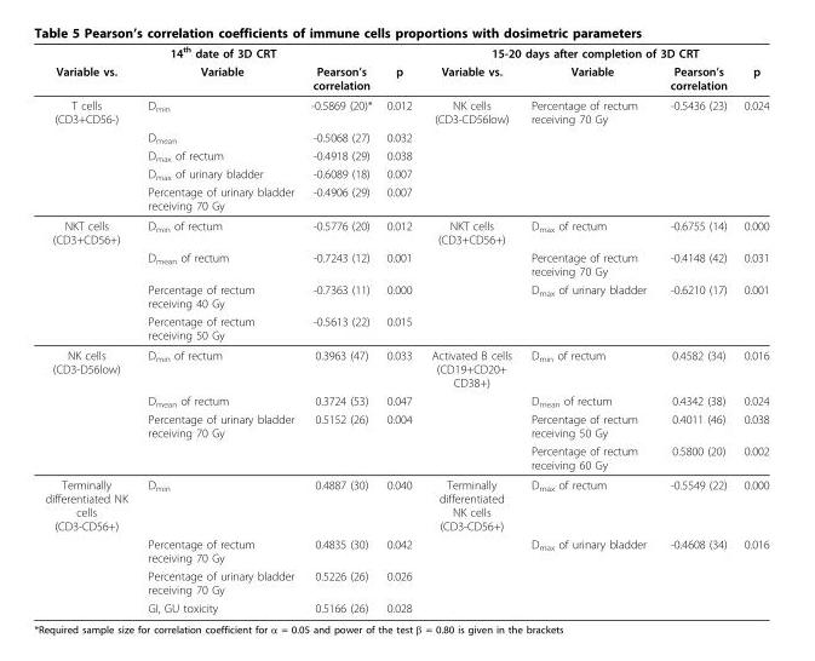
<table><thead><tr><td colspan="4">14<sup>th</sup> date of 3D CRT</td><td colspan="4">15-20 days after completion of 3D CRT</td></tr><tr><td>Variable vs.</td><td>Variable</td><td>Pearson’s correlation</td><td>p</td><td>Variable vs.</td><td>Variable</td><td>Pearson’s correlation</td><td>p</td></tr></thead><tbody><tr><td rowspan="5">T cells (CD3+CD56-)</td><td>D<sub>min</sub></td><td>-0.5869 (20)*</td><td>0.012</td><td>NK cells (CD3-CD56low)</td><td>Percentage of rectum receiving 70 Gy</td><td>-0.5436 (23)</td><td>0.024</td></tr><tr><td>D<sub>mean</sub></td><td>-0.5068 (27)</td><td>0.032</td><td></td><td></td><td></td><td></td></tr><tr><td>D<sub>max</sub> of rectum</td><td>-0.4918 (29)</td><td>0.038</td><td></td><td></td><td></td><td></td></tr><tr><td>D<sub>max</sub> of urinary bladder</td><td>-0.6089 (18)</td><td>0.007</td><td></td><td></td><td></td><td></td></tr><tr><td>Percentage of urinary bladder receiving 70 Gy</td><td>-0.4906 (29)</td><td>0.007</td><td></td><td></td><td></td><td></td></tr><tr><td rowspan="4">NKT cells (CD3+CD56+)</td><td>D<sub>min</sub> of rectum</td><td>-0.5776 (20)</td><td>0.012</td><td>NKT cells (CD3+CD56+)</td><td>D<sub>max</sub> of rectum</td><td>-0.6755 (14)</td><td>0.000</td></tr><tr><td>D<sub>mean</sub> of rectum</td><td>-0.7243 (12)</td><td>0.001</td><td></td><td>Percentage of rectum receiving 70 Gy</td><td>-0.4148 (42)</td><td>0.031</td></tr><tr><td>Percentage of rectum receiving 40 Gy</td><td>-0.7363 (11)</td><td>0.000</td><td></td><td>D<sub>max</sub> of urinary bladder</td><td>-0.6210 (17)</td><td>0.001</td></tr><tr><td>Percentage of rectum receiving 50 Gy</td><td>-0.5613 (22)</td><td>0.015</td><td></td><td></td><td></td><td></td></tr><tr><td rowspan="4">NK cells (CD3-D56low)</td><td>D<sub>min</sub> of rectum</td><td>0.3963 (47)</td><td>0.033</td><td>Activated B cells (CD19+CD20+ CD38+)</td><td>D<sub>min</sub> of rectum</td><td>0.4582 (34)</td><td>0.016</td></tr><tr><td>D<sub>mean</sub> of rectum</td><td>0.3724 (53)</td><td>0.047</td><td></td><td>D<sub>mean</sub> of rectum</td><td>0.4342 (38)</td><td>0.024</td></tr><tr><td>Percentage of urinary bladder receiving 70 Gy</td><td>0.5152 (26)</td><td>0.004</td><td></td><td>Percentage of rectum receiving 50 Gy</td><td>0.4011 (46)</td><td>0.038</td></tr><tr><td></td><td></td><td></td><td></td><td>Percentage of rectum receiving 60 Gy</td><td>0.5800 (20)</td><td>0.002</td></tr><tr><td rowspan="4">Terminally differentiated NK cells (CD3-CD56+)</td><td>D<sub>min</sub></td><td>0.4887 (30)</td><td>0.040</td><td>Terminally differentiated NK cells (CD3-CD56+)</td><td>D<sub>max</sub> of rectum</td><td>-0.5549 (22)</td><td>0.000</td></tr><tr><td>Percentage of rectum receiving 70 Gy</td><td>0.4835 (30)</td><td>0.042</td><td></td><td>D<sub>max</sub> of urinary bladder</td><td>-0.4608 (34)</td><td>0.016</td></tr><tr><td>Percentage of urinary bladder receiving 70 Gy</td><td>0.5226 (26)</td><td>0.026</td><td></td><td></td><td></td><td></td></tr><tr><td>GI, GU toxicity</td><td>0.5166 (26)</td><td>0.028</td><td></td><td></td><td></td><td></td></tr></tbody></table>